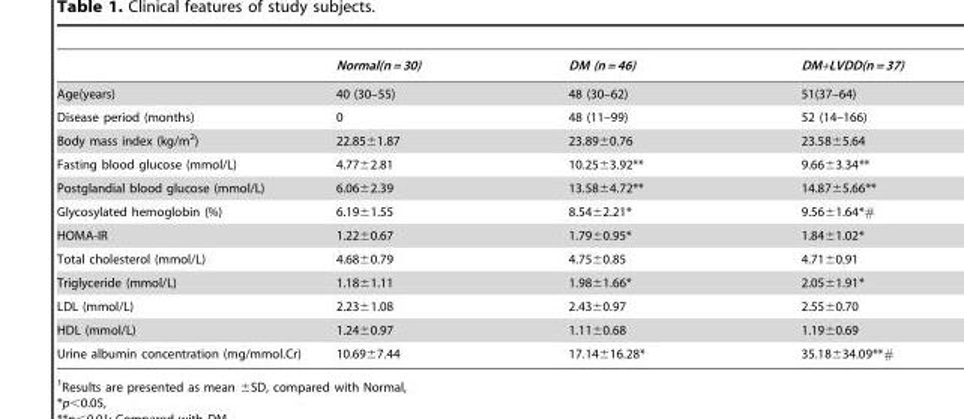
<table><thead><tr><td></td><td>Normal(n = 30)</td><td>DM (n = 46)</td><td>DM+LVDD(n = 37)</td></tr></thead><tbody><tr><td>Age(years)</td><td>40 (30–55)</td><td>48 (30–62)</td><td>51(37–64)</td></tr><tr><td>Disease period (months)</td><td>0</td><td>48 (11–99)</td><td>52 (14–166)</td></tr><tr><td>Body mass index (kg/m<sup>2</sup>)</td><td>22.85±1.87</td><td>23.89±0.76</td><td>23.58±5.64</td></tr><tr><td>Fasting blood glucose (mmol/L)</td><td>4.77±2.81</td><td>10.25±3.92**</td><td>9.66±3.34**</td></tr><tr><td>Postglandial blood glucose (mmol/L)</td><td>6.06±2.39</td><td>13.58±4.72**</td><td>14.87±5.66**</td></tr><tr><td>Glycosylated hemoglobin (%)</td><td>6.19±1.55</td><td>8.54±2.21*</td><td>9.56±1.64*#</td></tr><tr><td>HOMA-IR</td><td>1.22±0.67</td><td>1.79±0.95*</td><td>1.84±1.02*</td></tr><tr><td>Total cholesterol (mmol/L)</td><td>4.68±0.79</td><td>4.75±0.85</td><td>4.71±0.91</td></tr><tr><td>Triglyceride (mmol/L)</td><td>1.18±1.11</td><td>1.98±1.66*</td><td>2.05±1.91*</td></tr><tr><td>LDL (mmol/L)</td><td>2.23±1.08</td><td>2.43±0.97</td><td>2.55±0.70</td></tr><tr><td>HDL (mmol/L)</td><td>1.24±0.97</td><td>1.11±0.68</td><td>1.19±0.69</td></tr><tr><td>Urine albumin concentration (mg/mmol.Cr)</td><td>10.69±7.44</td><td>17.14±16.28*</td><td>35.18±34.09**#</td></tr></tbody></table>